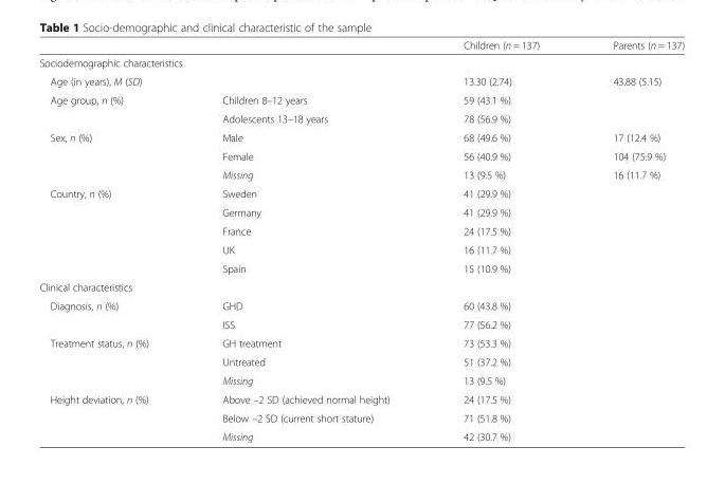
<table><thead><tr><td></td><td></td><td>Children (n = 137)</td><td>Parents (n = 137)</td></tr></thead><tbody><tr><td colspan="4">Sociodemographic characteristics</td></tr><tr><td>Age (in years), M (SD)</td><td></td><td>13.30 (2.74)</td><td>43.88 (5.15)</td></tr><tr><td rowspan="2">Age group, n (%)</td><td>Children 8–12 years</td><td>59 (43.1 %)</td><td></td></tr><tr><td>Adolescents 13–18 years</td><td>78 (56.9 %)</td><td></td></tr><tr><td rowspan="3">Sex, n (%)</td><td>Male</td><td>68 (49.6 %)</td><td>17 (12.4 %)</td></tr><tr><td>Female</td><td>56 (40.9 %)</td><td>104 (75.9 %)</td></tr><tr><td>Missing</td><td>13 (9.5 %)</td><td>16 (11.7 %)</td></tr><tr><td rowspan="5">Country, n (%)</td><td>Sweden</td><td colspan="2">41 (29.9 %)</td></tr><tr><td>Germany</td><td colspan="2">41 (29.9 %)</td></tr><tr><td>France</td><td colspan="2">24 (17.5 %)</td></tr><tr><td>UK</td><td colspan="2">16 (11.7 %)</td></tr><tr><td>Spain</td><td colspan="2">15 (10.9 %)</td></tr><tr><td colspan="4">Clinical characteristics</td></tr><tr><td rowspan="2">Diagnosis, n (%)</td><td>GHD</td><td>60 (43.8 %)</td><td></td></tr><tr><td>ISS</td><td>77 (56.2 %)</td><td></td></tr><tr><td rowspan="3">Treatment status, n (%)</td><td>GH treatment</td><td>73 (53.3 %)</td><td></td></tr><tr><td>Untreated</td><td>51 (37.2 %)</td><td></td></tr><tr><td>Missing</td><td>13 (9.5 %)</td><td></td></tr><tr><td rowspan="3">Height deviation, n (%)</td><td>Above –2 SD (achieved normal height)</td><td>24 (17.5 %)</td><td></td></tr><tr><td>Below –2 SD (current short stature)</td><td>71 (51.8 %)</td><td></td></tr><tr><td>Missing</td><td>42 (30.7 %)</td><td></td></tr></tbody></table>